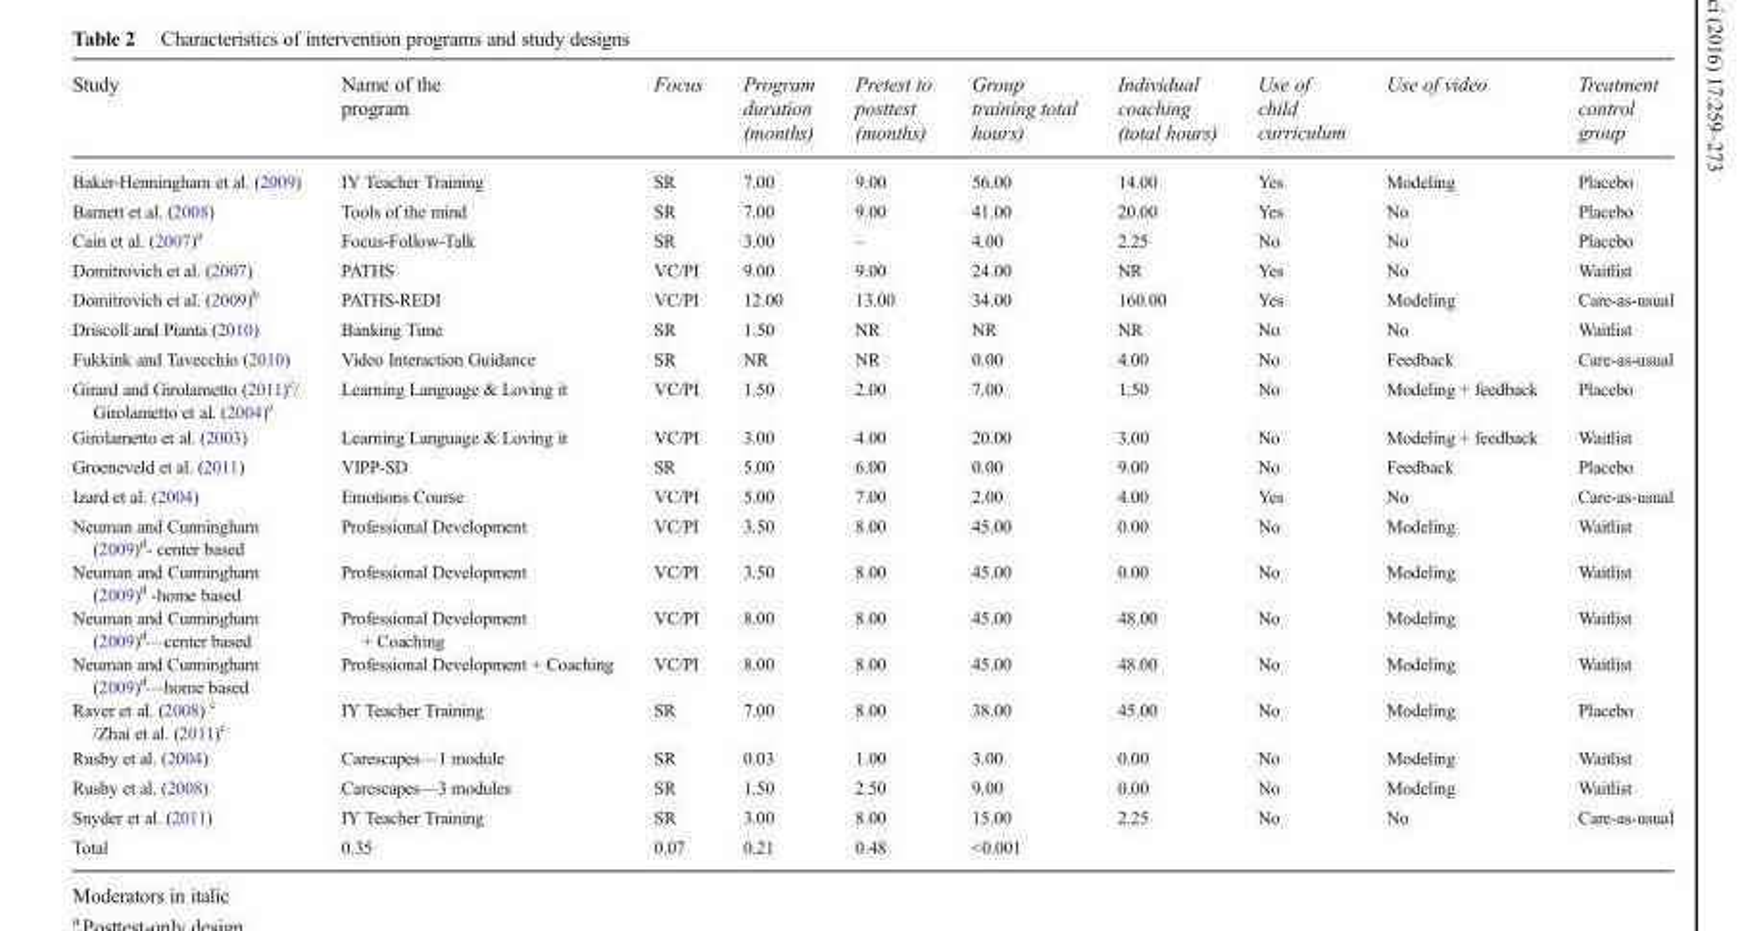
<table><thead><tr><td>Study</td><td>Name of the program</td><td>Focus</td><td>Program duration (months)</td><td>Pretest to posttest (months)</td><td>Group training total hours)</td><td>Individual coaching (total hours)</td><td>Use of child curriculum</td><td>Use of video</td><td>Treatment control group</td></tr></thead><tbody><tr><td>Baker-Henningham et al. (2009)</td><td>IY Teacher Training</td><td>SR</td><td>7.00</td><td>9.00</td><td>56.00</td><td>14.00</td><td>Yes</td><td>Modeling</td><td>Placebo</td></tr><tr><td>Barnett et al. (2008)</td><td>Tools of the mind</td><td>SR</td><td>7.00</td><td>9.00</td><td>41.00</td><td>20.00</td><td>Yes</td><td>No</td><td>Placebo</td></tr><tr><td>Cain et al. (2007)<sup>a</sup></td><td>Focus-Follow-Talk</td><td>SR</td><td>3.00</td><td>–</td><td>4.00</td><td>2.25</td><td>No</td><td>No</td><td>Placebo</td></tr><tr><td>Domitrovich et al. (2007)</td><td>PATHS</td><td>VC/PI</td><td>9.00</td><td>9.00</td><td>24.00</td><td>NR</td><td>Yes</td><td>No</td><td>Waitlist</td></tr><tr><td>Domitrovich et al. (2009)<sup>b</sup></td><td>PATHS-REDI</td><td>VC/PI</td><td>12.00</td><td>13.00</td><td>34.00</td><td>160.00</td><td>Yes</td><td>Modeling</td><td>Care-as-usual</td></tr><tr><td>Driscoll and Pianta (2010)</td><td>Banking Time</td><td>SR</td><td>1.50</td><td>NR</td><td>NR</td><td>NR</td><td>No</td><td>No</td><td>Waitlist</td></tr><tr><td>Fukkink and Tavecchio (2010)</td><td>Video Interaction Guidance</td><td>SR</td><td>NR</td><td>NR</td><td>0.00</td><td>4.00</td><td>No</td><td>Feedback</td><td>Care-as-usual</td></tr><tr><td>Girard and Girolametto (2011)<sup>c</sup>/ Girolametto et al. (2004)<sup>c</sup></td><td>Learning Language &amp; Loving it</td><td>VC/PI</td><td>1.50</td><td>2.00</td><td>7.00</td><td>1.50</td><td>No</td><td>Modeling + feedback</td><td>Placebo</td></tr><tr><td>Girolametto et al. (2003)</td><td>Learning Language &amp; Loving it</td><td>VC/PI</td><td>3.00</td><td>4.00</td><td>20.00</td><td>3.00</td><td>No</td><td>Modeling + feedback</td><td>Waitlist</td></tr><tr><td>Groeneveld et al. (2011)</td><td>VIPP-SD</td><td>SR</td><td>5.00</td><td>6.00</td><td>0.00</td><td>9.00</td><td>No</td><td>Feedback</td><td>Placebo</td></tr><tr><td>Izard et al. (2004)</td><td>Emotions Course</td><td>VC/PI</td><td>5.00</td><td>7.00</td><td>2.00</td><td>4.00</td><td>Yes</td><td>No</td><td>Care-as-usual</td></tr><tr><td>Neuman and Cunningham (2009)<sup>d</sup>- center based</td><td>Professional Development</td><td>VC/PI</td><td>3.50</td><td>8.00</td><td>45.00</td><td>0.00</td><td>No</td><td>Modeling</td><td>Waitlist</td></tr><tr><td>Neuman and Cunningham (2009)<sup>d</sup> -home based</td><td>Professional Development</td><td>VC/PI</td><td>3.50</td><td>8.00</td><td>45.00</td><td>0.00</td><td>No</td><td>Modeling</td><td>Waitlist</td></tr><tr><td>Neuman and Cunningham (2009)<sup>d</sup>—center based</td><td>Professional Development + Coaching</td><td>VC/PI</td><td>8.00</td><td>8.00</td><td>45.00</td><td>48.00</td><td>No</td><td>Modeling</td><td>Waitlist</td></tr><tr><td>Neuman and Cunningham (2009)<sup>d</sup>—home based</td><td>Professional Development + Coaching</td><td>VC/PI</td><td>8.00</td><td>8.00</td><td>45.00</td><td>48.00</td><td>No</td><td>Modeling</td><td>Waitlist</td></tr><tr><td>Raver et al. (2008) <sup>c</sup> /Zhai et al. (2011)<sup>c</sup></td><td>IY Teacher Training</td><td>SR</td><td>7.00</td><td>8.00</td><td>38.00</td><td>45.00</td><td>No</td><td>Modeling</td><td>Placebo</td></tr><tr><td>Rusby et al. (2004)</td><td>Carescapes—1 module</td><td>SR</td><td>0.03</td><td>1.00</td><td>3.00</td><td>0.00</td><td>No</td><td>Modeling</td><td>Waitlist</td></tr><tr><td>Rusby et al. (2008)</td><td>Carescapes—3 modules</td><td>SR</td><td>1.50</td><td>2.50</td><td>9.00</td><td>0.00</td><td>No</td><td>Modeling</td><td>Waitlist</td></tr><tr><td>Snyder et al. (2011)</td><td>IY Teacher Training</td><td>SR</td><td>3.00</td><td>8.00</td><td>15.00</td><td>2.25</td><td>No</td><td>No</td><td>Care-as-usual</td></tr><tr><td>Total</td><td>0.35</td><td>0.07</td><td>0.21</td><td>0.48</td><td>&lt;0.001</td><td></td><td></td><td></td><td></td></tr></tbody></table>